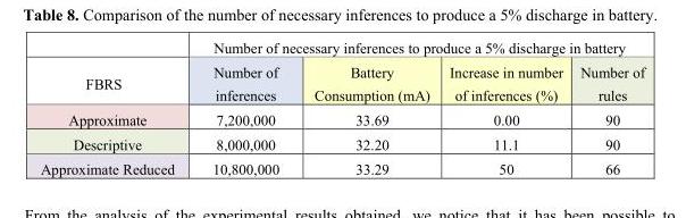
<table><thead><tr><td rowspan="2">FBRS</td><td colspan="4">Number of necessary inferences to produce a 5% discharge in battery</td></tr><tr><td>Number of inferences</td><td>Battery Consumption (mA)</td><td>Increase in number of inferences (%)</td><td>Number of rules</td></tr></thead><tbody><tr><td>Approximate</td><td>7,200,000</td><td>33.69</td><td>0.00</td><td>90</td></tr><tr><td>Descriptive</td><td>8,000,000</td><td>32.20</td><td>11.1</td><td>90</td></tr><tr><td>Approximate Reduced</td><td>10,800,000</td><td>33.29</td><td>50</td><td>66</td></tr></tbody></table>